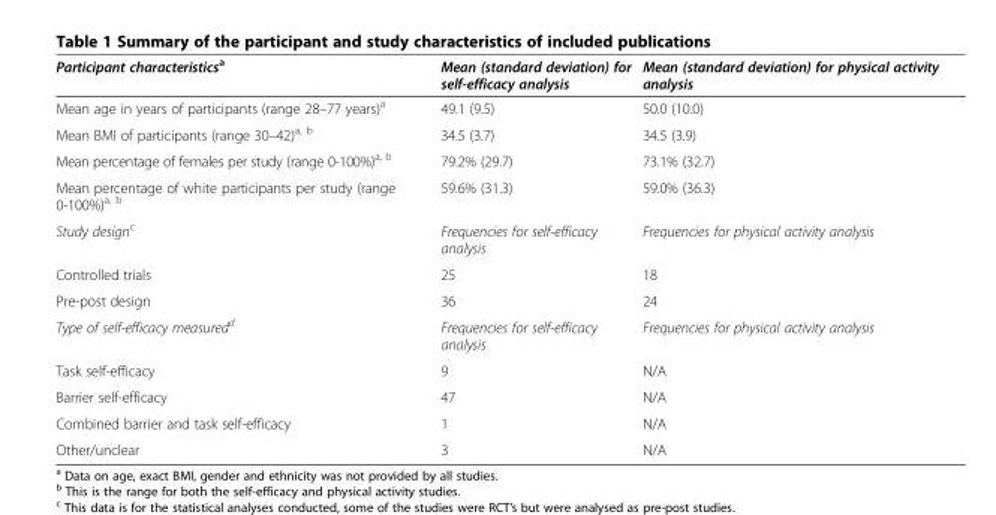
<table><thead><tr><td>Participant characteristics<sup>a</sup></td><td>Mean (standard deviation) for self-efficacy analysis</td><td>Mean (standard deviation) for physical activity analysis</td></tr></thead><tbody><tr><td>Mean age in years of participants (range 28–77 years)<sup>a</sup></td><td>49.1 (9.5)</td><td>50.0 (10.0)</td></tr><tr><td>Mean BMI of participants (range 30–42)<sup>a, b</sup></td><td>34.5 (3.7)</td><td>34.5 (3.9)</td></tr><tr><td>Mean percentage of females per study (range 0-100%)<sup>a, b</sup></td><td>79.2% (29.7)</td><td>73.1% (32.7)</td></tr><tr><td>Mean percentage of white participants per study (range 0-100%)<sup>a, b</sup></td><td>59.6% (31.3)</td><td>59.0% (36.3)</td></tr><tr><td>Study design<sup>c</sup></td><td>Frequencies for self-efficacy analysis</td><td>Frequencies for physical activity analysis</td></tr><tr><td>Controlled trials</td><td>25</td><td>18</td></tr><tr><td>Pre-post design</td><td>36</td><td>24</td></tr><tr><td>Type of self-efficacy measured<sup>d</sup></td><td>Frequencies for self-efficacy analysis</td><td>Frequencies for physical activity analysis</td></tr><tr><td>Task self-efficacy</td><td>9</td><td>N/A</td></tr><tr><td>Barrier self-efficacy</td><td>47</td><td>N/A</td></tr><tr><td>Combined barrier and task self-efficacy</td><td>1</td><td>N/A</td></tr><tr><td>Other/unclear</td><td>3</td><td>N/A</td></tr></tbody></table>